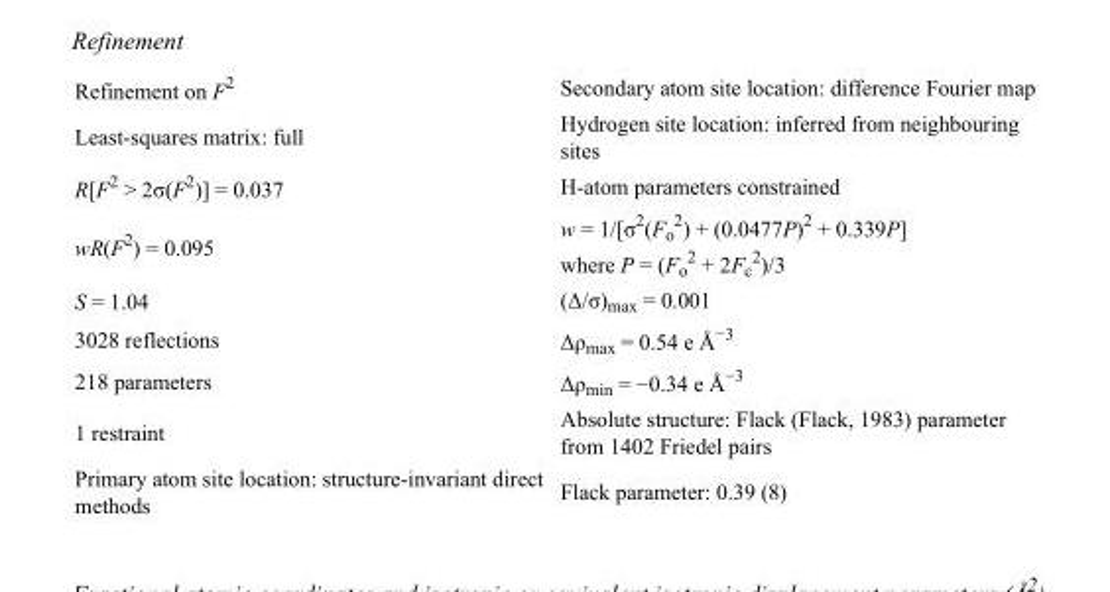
<table><tbody><tr><td>Refinement on F<sup>2</sup></td><td>Secondary atom site location: difference Fourier map</td></tr><tr><td>Least-squares matrix: full</td><td>Hydrogen site location: inferred from neighbouring sites</td></tr><tr><td>R[F<sup>2</sup> &gt; 2σ(F<sup>2</sup>)] = 0.037</td><td>H-atom parameters constrained</td></tr><tr><td>wR(F<sup>2</sup>) = 0.095</td><td>w = 1/[σ<sup>2</sup>(F<sub>o</sub> <sup>2</sup>) + (0.0477P)<sup>2</sup> + 0.339P] where P = (F<sub>o</sub> <sup>2</sup> + 2F<sub>c</sub> <sup>2</sup>)/3</td></tr><tr><td>S = 1.04</td><td>(Δ/σ)<sub>max</sub> = 0.001</td></tr><tr><td>3028 reflections</td><td>Δρ<sub>max</sub> = 0.54 e Å<sup>−3</sup></td></tr><tr><td>218 parameters</td><td>Δρ<sub>min</sub> = −0.34 e Å<sup>−3</sup></td></tr><tr><td>1 restraint</td><td>Absolute structure: Flack (Flack, 1983) parameter from 1402 Friedel pairs</td></tr><tr><td>Primary atom site location: structure-invariant direct methods</td><td>Flack parameter: 0.39 (8)</td></tr></tbody></table>